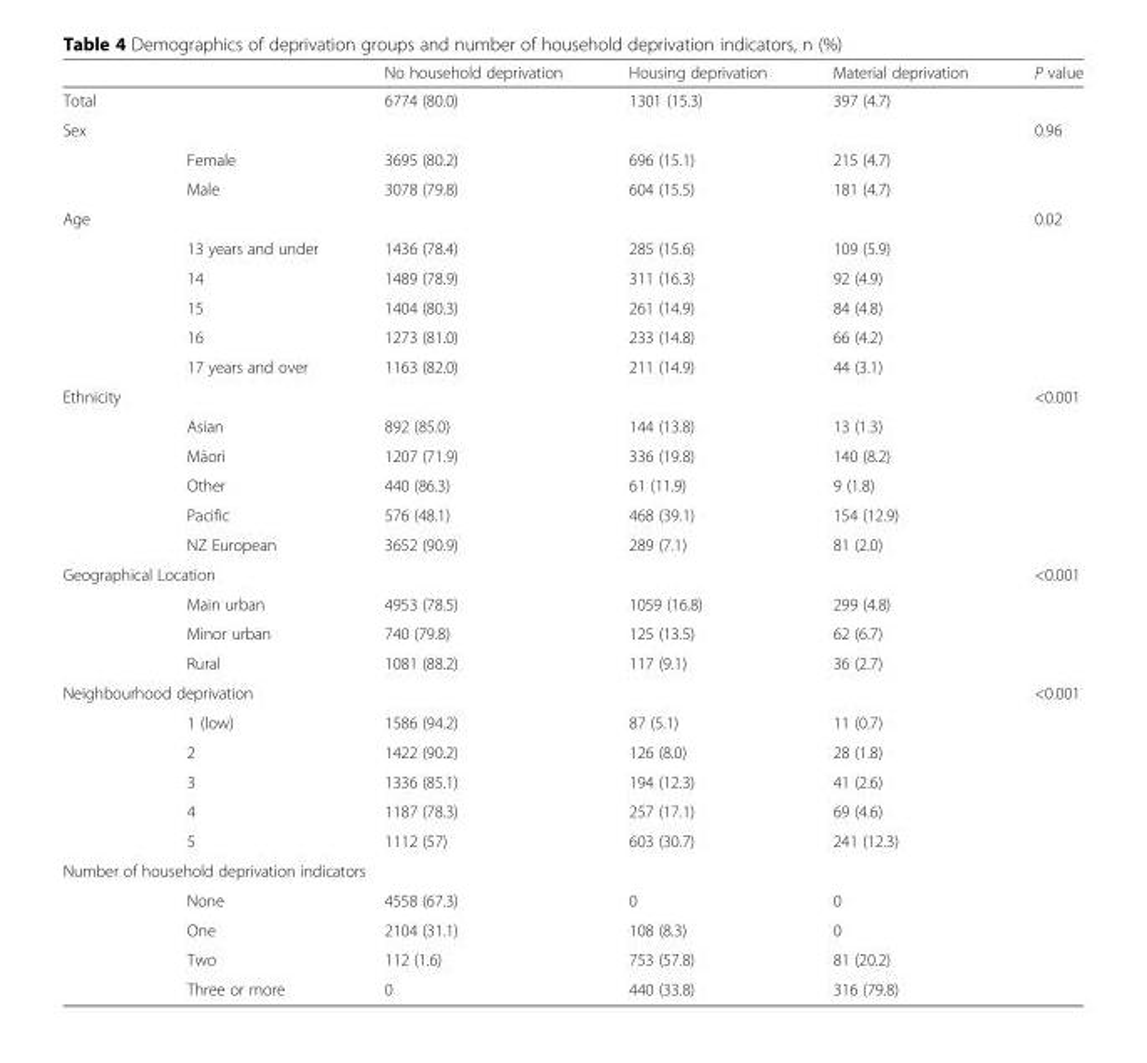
<table><thead><tr><td></td><td></td><td>No household deprivation</td><td>Housing deprivation</td><td>Material deprivation</td><td>P value</td></tr></thead><tbody><tr><td>Total</td><td></td><td>6774 (80.0)</td><td>1301 (15.3)</td><td>397 (4.7)</td><td></td></tr><tr><td rowspan="3">Sex</td><td></td><td></td><td></td><td></td><td>0.96</td></tr><tr><td>Female</td><td>3695 (80.2)</td><td>696 (15.1)</td><td>215 (4.7)</td><td></td></tr><tr><td>Male</td><td>3078 (79.8)</td><td>604 (15.5)</td><td>181 (4.7)</td><td></td></tr><tr><td rowspan="6">Age</td><td></td><td></td><td></td><td></td><td>0.02</td></tr><tr><td>13 years and under</td><td>1436 (78.4)</td><td>285 (15.6)</td><td>109 (5.9)</td><td></td></tr><tr><td>14</td><td>1489 (78.9)</td><td>311 (16.3)</td><td>92 (4.9)</td><td></td></tr><tr><td>15</td><td>1404 (80.3)</td><td>261 (14.9)</td><td>84 (4.8)</td><td></td></tr><tr><td>16</td><td>1273 (81.0)</td><td>233 (14.8)</td><td>66 (4.2)</td><td></td></tr><tr><td>17 years and over</td><td>1163 (82.0)</td><td>211 (14.9)</td><td>44 (3.1)</td><td></td></tr><tr><td rowspan="6">Ethnicity</td><td></td><td></td><td></td><td></td><td>&lt;0.001</td></tr><tr><td>Asian</td><td>892 (85.0)</td><td>144 (13.8)</td><td>13 (1.3)</td><td></td></tr><tr><td>Māori</td><td>1207 (71.9)</td><td>336 (19.8)</td><td>140 (8.2)</td><td></td></tr><tr><td>Other</td><td>440 (86.3)</td><td>61 (11.9)</td><td>9 (1.8)</td><td></td></tr><tr><td>Pacific</td><td>576 (48.1)</td><td>468 (39.1)</td><td>154 (12.9)</td><td></td></tr><tr><td>NZ European</td><td>3652 (90.9)</td><td>289 (7.1)</td><td>81 (2.0)</td><td></td></tr><tr><td colspan="2">Geographical Location</td><td></td><td></td><td></td><td>&lt;0.001</td></tr><tr><td></td><td>Main urban</td><td>4953 (78.5)</td><td>1059 (16.8)</td><td>299 (4.8)</td><td></td></tr><tr><td></td><td>Minor urban</td><td>740 (79.8)</td><td>125 (13.5)</td><td>62 (6.7)</td><td></td></tr><tr><td></td><td>Rural</td><td>1081 (88.2)</td><td>117 (9.1)</td><td>36 (2.7)</td><td></td></tr><tr><td colspan="2">Neighbourhood deprivation</td><td></td><td></td><td></td><td>&lt;0.001</td></tr><tr><td></td><td>1 (low)</td><td>1586 (94.2)</td><td>87 (5.1)</td><td>11 (0.7)</td><td></td></tr><tr><td></td><td>2</td><td>1422 (90.2)</td><td>126 (8.0)</td><td>28 (1.8)</td><td></td></tr><tr><td></td><td>3</td><td>1336 (85.1)</td><td>194 (12.3)</td><td>41 (2.6)</td><td></td></tr><tr><td></td><td>4</td><td>1187 (78.3)</td><td>257 (17.1)</td><td>69 (4.6)</td><td></td></tr><tr><td></td><td>5</td><td>1112 (57)</td><td>603 (30.7)</td><td>241 (12.3)</td><td></td></tr><tr><td colspan="6">Number of household deprivation indicators</td></tr><tr><td></td><td>None</td><td>4558 (67.3)</td><td>0</td><td>0</td><td></td></tr><tr><td></td><td>One</td><td>2104 (31.1)</td><td>108 (8.3)</td><td>0</td><td></td></tr><tr><td></td><td>Two</td><td>112 (1.6)</td><td>753 (57.8)</td><td>81 (20.2)</td><td></td></tr><tr><td></td><td>Three or more</td><td>0</td><td>440 (33.8)</td><td>316 (79.8)</td><td></td></tr></tbody></table>